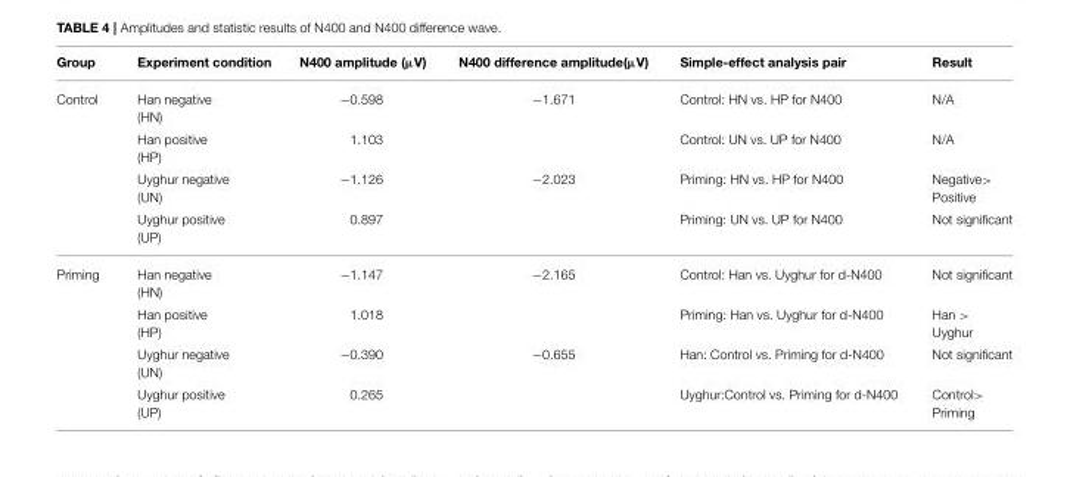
<table><thead><tr><td>Group</td><td>Experiment condition</td><td>N400 amplitude (µV)</td><td>N400 difference amplitude(µV)</td><td>Simple-effect analysis pair</td><td>Result</td></tr></thead><tbody><tr><td rowspan="4">Control</td><td>Han negative (HN)</td><td>−0.598</td><td>−1.671</td><td>Control: HN vs. HP for N400</td><td>N/A</td></tr><tr><td>Han positive (HP)</td><td>1.103</td><td></td><td>Control: UN vs. UP for N400</td><td>N/A</td></tr><tr><td>Uyghur negative (UN)</td><td>−1.126</td><td>−2.023</td><td>Priming: HN vs. HP for N400</td><td>Negative&gt; Positive</td></tr><tr><td>Uyghur positive (UP)</td><td>0.897</td><td></td><td>Priming: UN vs. UP for N400</td><td>Not significant</td></tr><tr><td rowspan="4">Priming</td><td>Han negative (HN)</td><td>−1.147</td><td>−2.165</td><td>Control: Han vs. Uyghur for d-N400</td><td>Not significant</td></tr><tr><td>Han positive (HP)</td><td>1.018</td><td></td><td>Priming: Han vs. Uyghur for d-N400</td><td>Han &gt; Uyghur</td></tr><tr><td>Uyghur negative (UN)</td><td>−0.390</td><td>−0.655</td><td>Han: Control vs. Priming for d-N400</td><td>Not significant</td></tr><tr><td>Uyghur positive (UP)</td><td>0.265</td><td></td><td>Uyghur:Control vs. Priming for d-N400</td><td>Control&gt; Priming</td></tr></tbody></table>